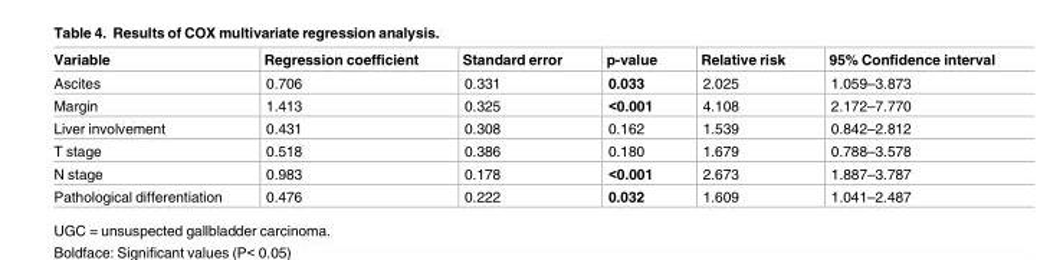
<table><thead><tr><td>Variable</td><td>Regression coefficient</td><td>Standard error</td><td>p-value</td><td>Relative risk</td><td>95% Confidence interval</td></tr></thead><tbody><tr><td>Ascites</td><td>0.706</td><td>0.331</td><td>0.033</td><td>2.025</td><td>1.059–3.873</td></tr><tr><td>Margin</td><td>1.413</td><td>0.325</td><td>&lt;0.001</td><td>4.108</td><td>2.172–7.770</td></tr><tr><td>Liver involvement</td><td>0.431</td><td>0.308</td><td>0.162</td><td>1.539</td><td>0.842–2.812</td></tr><tr><td>T stage</td><td>0.518</td><td>0.386</td><td>0.180</td><td>1.679</td><td>0.788–3.578</td></tr><tr><td>N stage</td><td>0.983</td><td>0.178</td><td>&lt;0.001</td><td>2.673</td><td>1.887–3.787</td></tr><tr><td>Pathological differentiation</td><td>0.476</td><td>0.222</td><td>0.032</td><td>1.609</td><td>1.041–2.487</td></tr></tbody></table>